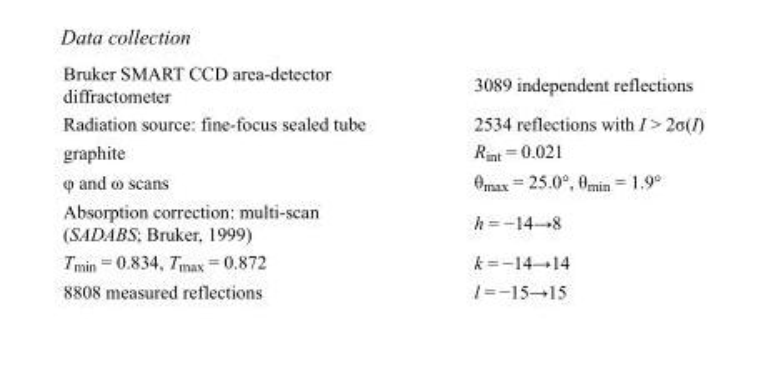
<table><tbody><tr><td>Bruker SMART CCD area-detector diffractometer</td><td>3089 independent reflections</td></tr><tr><td>Radiation source: fine-focus sealed tube</td><td>2534 reflections with I &gt; 2σ(I)</td></tr><tr><td>graphite</td><td>R<sub>int</sub> = 0.021</td></tr><tr><td>φ and ω scans</td><td>θ<sub>max</sub> = 25.0°, θ<sub>min</sub> = 1.9°</td></tr><tr><td>Absorption correction: multi-scan (SADABS; Bruker, 1999)</td><td>h = −14→8</td></tr><tr><td>T<sub>min</sub> = 0.834, T<sub>max</sub> = 0.872</td><td>k = −14→14</td></tr><tr><td>8808 measured reflections</td><td>l = −15→15</td></tr></tbody></table>